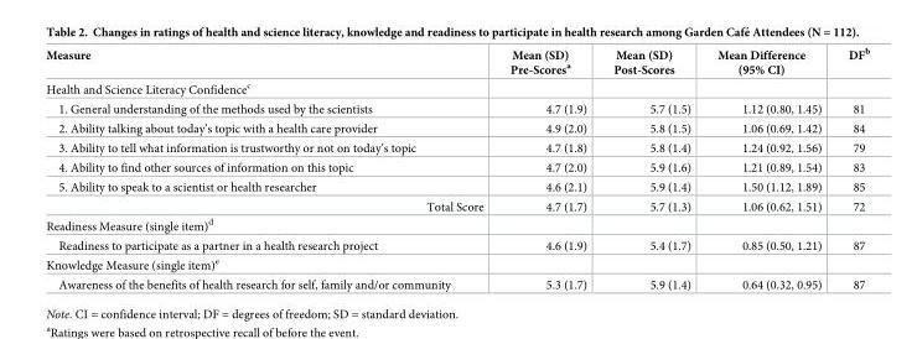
<table><thead><tr><td>Measure</td><td>Mean (SD) Pre-Scores<sup>a</sup></td><td>Mean (SD) Post-Scores</td><td>Mean Difference (95% CI)</td><td>DF<sup>b</sup></td></tr></thead><tbody><tr><td colspan="5">Health and Science Literacy Confidence<sup>c</sup></td></tr><tr><td>1. General understanding of the methods used by the scientists</td><td>4.7 (1.9)</td><td>5.7 (1.5)</td><td>1.12 (0.80, 1.45)</td><td>81</td></tr><tr><td>2. Ability talking about today’s topic with a health care provider</td><td>4.9 (2.0)</td><td>5.8 (1.5)</td><td>1.06 (0.69, 1.42)</td><td>84</td></tr><tr><td>3. Ability to tell what information is trustworthy or not on today’s topic</td><td>4.7 (1.8)</td><td>5.8 (1.4)</td><td>1.24 (0.92, 1.56)</td><td>79</td></tr><tr><td>4. Ability to find other sources of information on this topic</td><td>4.7 (2.0)</td><td>5.9 (1.6)</td><td>1.21 (0.89, 1.54)</td><td>83</td></tr><tr><td>5. Ability to speak to a scientist or health researcher</td><td>4.6 (2.1)</td><td>5.9 (1.4)</td><td>1.50 (1.12, 1.89)</td><td>85</td></tr><tr><td>Total Score</td><td>4.7 (1.7)</td><td>5.7 (1.3)</td><td>1.06 (0.62, 1.51)</td><td>72</td></tr><tr><td colspan="5">Readiness Measure (single item)<sup>d</sup></td></tr><tr><td>Readiness to participate as a partner in a health research project</td><td>4.6 (1.9)</td><td>5.4 (1.7)</td><td>0.85 (0.50, 1.21)</td><td>87</td></tr><tr><td colspan="5">Knowledge Measure (single item)<sup>e</sup></td></tr><tr><td>Awareness of the benefits of health research for self, family and/or community</td><td>5.3 (1.7)</td><td>5.9 (1.4)</td><td>0.64 (0.32, 0.95)</td><td>87</td></tr></tbody></table>